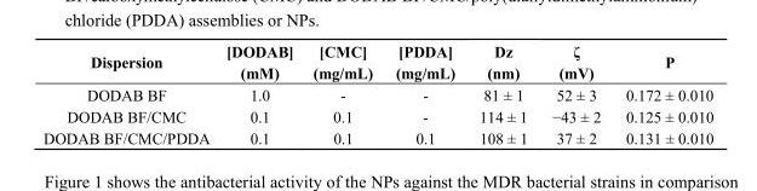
<table><thead><tr><td>Dispersion</td><td>[DODAB] (mM)</td><td>[CMC] (mg/mL)</td><td>[PDDA] (mg/mL)</td><td>Dz (nm)</td><td>ζ (mV)</td><td>P</td></tr></thead><tbody><tr><td>DODAB BF</td><td>1.0</td><td>-</td><td>-</td><td>81 ± 1</td><td>52 ± 3</td><td>0.172 ± 0.010</td></tr><tr><td>DODAB BF/CMC</td><td>0.1</td><td>0.1</td><td>-</td><td>114 ± 1</td><td>−43 ± 2</td><td>0.125 ± 0.010</td></tr><tr><td>DODAB BF/CMC/PDDA</td><td>0.1</td><td>0.1</td><td>0.1</td><td>108 ± 1</td><td>37 ± 2</td><td>0.131 ± 0.010</td></tr></tbody></table>